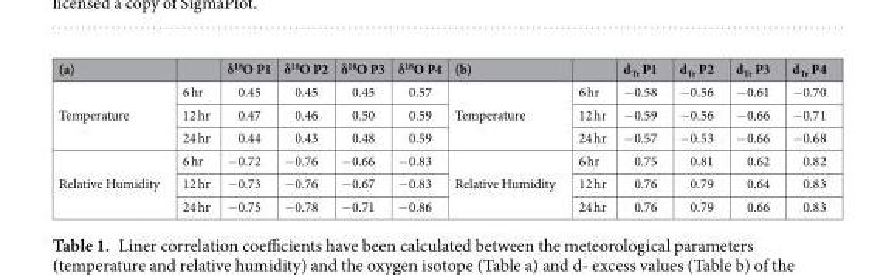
<table><thead><tr><td>(a)</td><td></td><td>δ<sup>18</sup>O P1</td><td>δ<sup>18</sup>O P2</td><td>δ<sup>18</sup>O P3</td><td>δ<sup>18</sup>O P4</td><td>(b)</td><td></td><td>d<sub>Tr</sub> P1</td><td>d<sub>Tr</sub> P2</td><td>d<sub>Tr</sub> P3</td><td>d<sub>Tr</sub> P4</td></tr></thead><tbody><tr><td rowspan="3">Temperature</td><td>6 hr</td><td>0.45</td><td>0.45</td><td>0.45</td><td>0.57</td><td rowspan="3">Temperature</td><td>6 hr</td><td>−0.58</td><td>−0.56</td><td>−0.61</td><td>−0.70</td></tr><tr><td>12 hr</td><td>0.47</td><td>0.46</td><td>0.50</td><td>0.59</td><td>12 hr</td><td>−0.59</td><td>−0.56</td><td>−0.66</td><td>−0.71</td></tr><tr><td>24 hr</td><td>0.44</td><td>0.43</td><td>0.48</td><td>0.59</td><td>24 hr</td><td>−0.57</td><td>−0.53</td><td>−0.66</td><td>−0.68</td></tr><tr><td rowspan="3">Relative Humidity</td><td>6 hr</td><td>−0.72</td><td>−0.76</td><td>−0.66</td><td>−0.83</td><td rowspan="3">Relative Humidity</td><td>6 hr</td><td>0.75</td><td>0.81</td><td>0.62</td><td>0.82</td></tr><tr><td>12 hr</td><td>−0.73</td><td>−0.76</td><td>−0.67</td><td>−0.83</td><td>12 hr</td><td>0.76</td><td>0.79</td><td>0.64</td><td>0.83</td></tr><tr><td>24 hr</td><td>−0.75</td><td>−0.78</td><td>−0.71</td><td>−0.86</td><td>24 hr</td><td>0.76</td><td>0.79</td><td>0.66</td><td>0.83</td></tr></tbody></table>